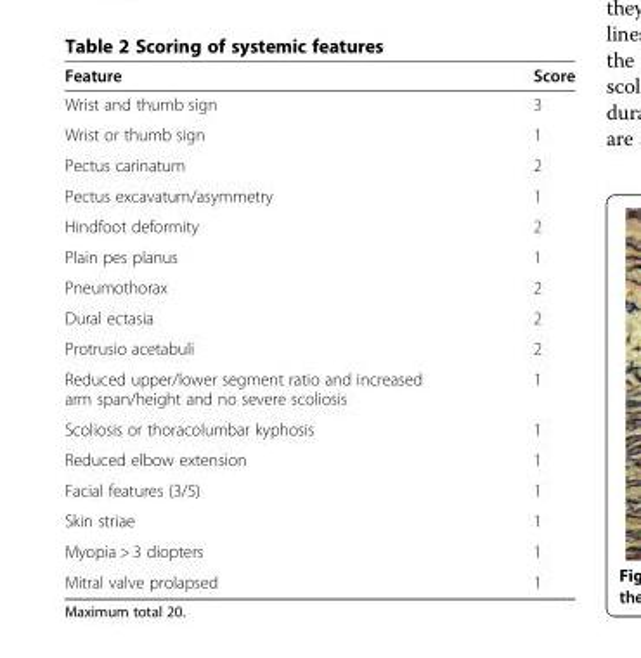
<table><thead><tr><td>Feature</td><td>Score</td></tr></thead><tbody><tr><td>Wrist and thumb sign</td><td>3</td></tr><tr><td>Wrist or thumb sign</td><td>1</td></tr><tr><td>Pectus carinatum</td><td>2</td></tr><tr><td>Pectus excavatum/asymmetry</td><td>1</td></tr><tr><td>Hindfoot deformity</td><td>2</td></tr><tr><td>Plain pes planus</td><td>1</td></tr><tr><td>Pneumothorax</td><td>2</td></tr><tr><td>Dural ectasia</td><td>2</td></tr><tr><td>Protrusio acetabuli</td><td>2</td></tr><tr><td>Reduced upper/lower segment ratio and increased arm span/height and no severe scoliosis</td><td>1</td></tr><tr><td>Scoliosis or thoracolumbar kyphosis</td><td>1</td></tr><tr><td>Reduced elbow extension</td><td>1</td></tr><tr><td>Facial features (3/5)</td><td>1</td></tr><tr><td>Skin striae</td><td>1</td></tr><tr><td>Myopia &gt; 3 diopters</td><td>1</td></tr><tr><td>Mitral valve prolapsed</td><td>1</td></tr></tbody></table>